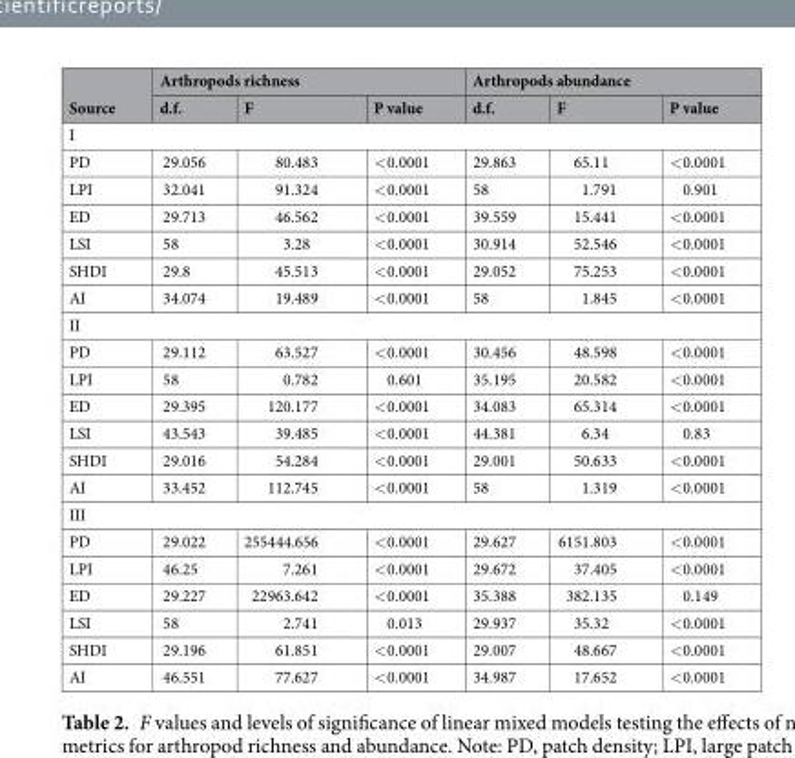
<table><thead><tr><td rowspan="2">Source</td><td colspan="3">Arthropods richness</td><td colspan="3">Arthropods abundance</td></tr><tr><td>d.f.</td><td>F</td><td>P value</td><td>d.f.</td><td>F</td><td>P value</td></tr></thead><tbody><tr><td colspan="7">I</td></tr><tr><td>PD</td><td>29.056</td><td>80.483</td><td>&lt;0.0001</td><td>29.863</td><td>65.11</td><td>&lt;0.0001</td></tr><tr><td>LPI</td><td>32.041</td><td>91.324</td><td>&lt;0.0001</td><td>58</td><td>1.791</td><td>0.901</td></tr><tr><td>ED</td><td>29.713</td><td>46.562</td><td>&lt;0.0001</td><td>39.559</td><td>15.441</td><td>&lt;0.0001</td></tr><tr><td>LSI</td><td>58</td><td>3.28</td><td>&lt;0.0001</td><td>30.914</td><td>52.546</td><td>&lt;0.0001</td></tr><tr><td>SHDI</td><td>29.8</td><td>45.513</td><td>&lt;0.0001</td><td>29.052</td><td>75.253</td><td>&lt;0.0001</td></tr><tr><td>AI</td><td>34.074</td><td>19.489</td><td>&lt;0.0001</td><td>58</td><td>1.845</td><td>&lt;0.0001</td></tr><tr><td colspan="7">II</td></tr><tr><td>PD</td><td>29.112</td><td>63.527</td><td>&lt;0.0001</td><td>30.456</td><td>48.598</td><td>&lt;0.0001</td></tr><tr><td>LPI</td><td>58</td><td>0.782</td><td>0.601</td><td>35.195</td><td>20.582</td><td>&lt;0.0001</td></tr><tr><td>ED</td><td>29.395</td><td>120.177</td><td>&lt;0.0001</td><td>34.083</td><td>65.314</td><td>&lt;0.0001</td></tr><tr><td>LSI</td><td>43.543</td><td>39.485</td><td>&lt;0.0001</td><td>44.381</td><td>6.34</td><td>0.83</td></tr><tr><td>SHDI</td><td>29.016</td><td>54.284</td><td>&lt;0.0001</td><td>29.001</td><td>50.633</td><td>&lt;0.0001</td></tr><tr><td>AI</td><td>33.452</td><td>112.745</td><td>&lt;0.0001</td><td>58</td><td>1.319</td><td>&lt;0.0001</td></tr><tr><td colspan="7">III</td></tr><tr><td>PD</td><td>29.022</td><td>255444.656</td><td>&lt;0.0001</td><td>29.627</td><td>6151.803</td><td>&lt;0.0001</td></tr><tr><td>LPI</td><td>46.25</td><td>7.261</td><td>&lt;0.0001</td><td>29.672</td><td>37.405</td><td>&lt;0.0001</td></tr><tr><td>ED</td><td>29.227</td><td>22963.642</td><td>&lt;0.0001</td><td>35.388</td><td>382.135</td><td>0.149</td></tr><tr><td>LSI</td><td>58</td><td>2.741</td><td>0.013</td><td>29.937</td><td>35.32</td><td>&lt;0.0001</td></tr><tr><td>SHDI</td><td>29.196</td><td>61.851</td><td>&lt;0.0001</td><td>29.007</td><td>48.667</td><td>&lt;0.0001</td></tr><tr><td>AI</td><td>46.551</td><td>77.627</td><td>&lt;0.0001</td><td>34.987</td><td>17.652</td><td>&lt;0.0001</td></tr></tbody></table>